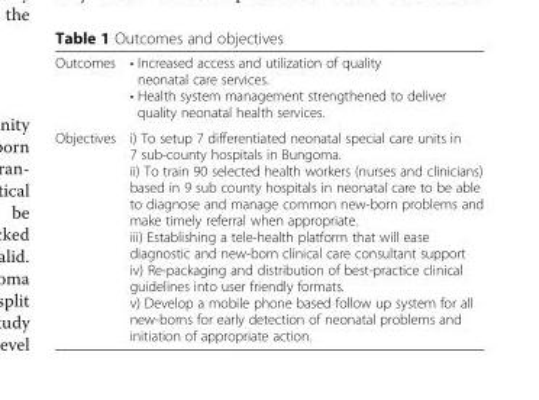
<table><tbody><tr><td>Outcomes</td><td>• Increased access and utilization of quality neonatal care services. • Health system management strengthened to deliver quality neonatal health services.</td></tr><tr><td>Objectives</td><td>i) To setup 7 differentiated neonatal special care units in 7 sub-county hospitals in Bungoma. ii) To train 90 selected health workers (nurses and clinicians) based in 9 sub county hospitals in neonatal care to be able to diagnose and manage common new-born problems and make timely referral when appropriate. iii) Establishing a tele-health platform that will ease diagnostic and new-born clinical care consultant support iv) Re-packaging and distribution of best-practice clinical guidelines into user friendly formats. v) Develop a mobile phone based follow up system for all new-borns for early detection of neonatal problems and initiation of appropriate action.</td></tr></tbody></table>